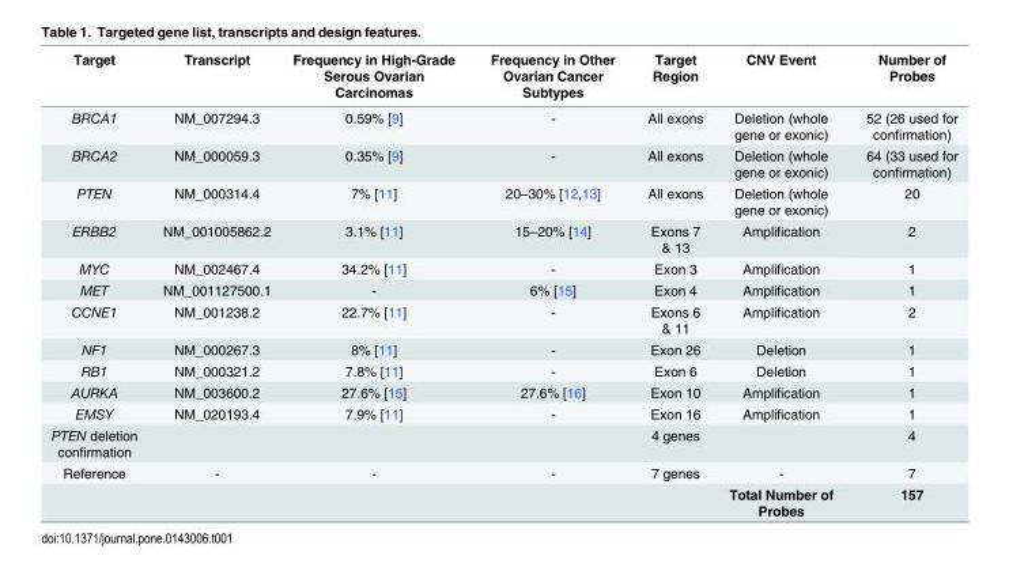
<table><thead><tr><td>Target</td><td>Transcript</td><td>Frequency in High-Grade Serous Ovarian Carcinomas</td><td>Frequency in Other Ovarian Cancer Subtypes</td><td>Target Region</td><td>CNV Event</td><td>Number of Probes</td></tr></thead><tbody><tr><td>BRCA1</td><td>NM_007294.3</td><td>0.59% [9]</td><td>-</td><td>All exons</td><td>Deletion (whole gene or exonic)</td><td>52 (26 used for confirmation)</td></tr><tr><td>BRCA2</td><td>NM_000059.3</td><td>0.35% [9]</td><td>-</td><td>All exons</td><td>Deletion (whole gene or exonic)</td><td>64 (33 used for confirmation)</td></tr><tr><td>PTEN</td><td>NM_000314.4</td><td>7% [11]</td><td>20–30% [12,13]</td><td>All exons</td><td>Deletion (whole gene or exonic)</td><td>20</td></tr><tr><td>ERBB2</td><td>NM_001005862.2</td><td>3.1% [11]</td><td>15–20% [14]</td><td>Exons 7 &amp; 13</td><td>Amplification</td><td>2</td></tr><tr><td>MYC</td><td>NM_002467.4</td><td>34.2% [11]</td><td>-</td><td>Exon 3</td><td>Amplification</td><td>1</td></tr><tr><td>MET</td><td>NM_001127500.1</td><td>-</td><td>6% [15]</td><td>Exon 4</td><td>Amplification</td><td>1</td></tr><tr><td>CCNE1</td><td>NM_001238.2</td><td>22.7% [11]</td><td>-</td><td>Exons 6 &amp; 11</td><td>Amplification</td><td>2</td></tr><tr><td>NF1</td><td>NM_000267.3</td><td>8% [11]</td><td>-</td><td>Exon 26</td><td>Deletion</td><td>1</td></tr><tr><td>RB1</td><td>NM_000321.2</td><td>7.8% [11]</td><td>-</td><td>Exon 6</td><td>Deletion</td><td>1</td></tr><tr><td>AURKA</td><td>NM_003600.2</td><td>27.6% [15]</td><td>27.6% [16]</td><td>Exon 10</td><td>Amplification</td><td>1</td></tr><tr><td>EMSY</td><td>NM_020193.4</td><td>7.9% [11]</td><td>-</td><td>Exon 16</td><td>Amplification</td><td>1</td></tr><tr><td>PTEN deletion confirmation</td><td></td><td></td><td></td><td>4 genes</td><td></td><td>4</td></tr><tr><td rowspan="2">Reference</td><td>-</td><td>-</td><td>-</td><td>7 genes</td><td>-</td><td>7</td></tr><tr><td></td><td></td><td></td><td></td><td>Total Number of Probes</td><td>157</td></tr></tbody></table>